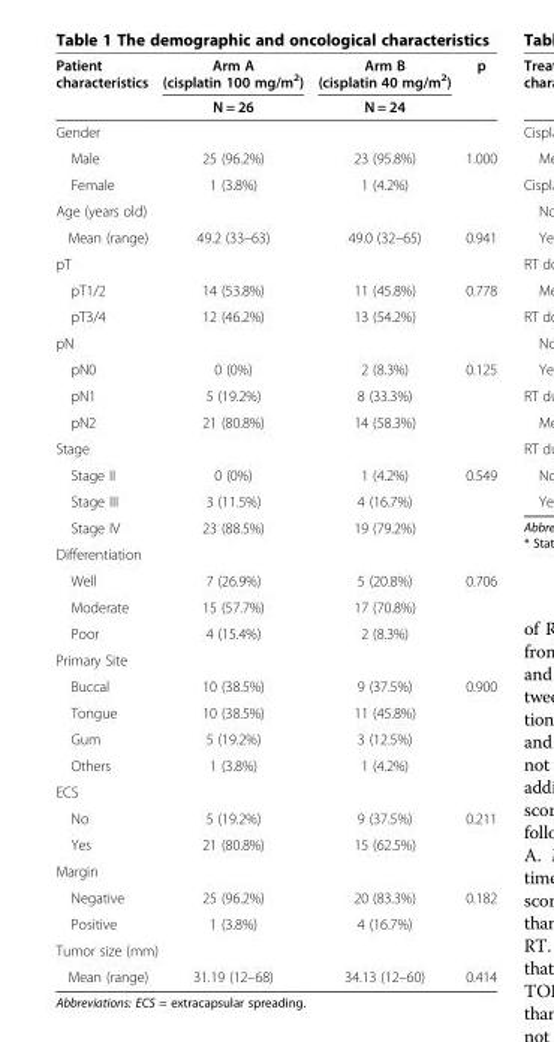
<table><thead><tr><td rowspan="2">Patient characteristics</td><td rowspan="2">Arm A (cisplatin 100 mg/m<sup>2</sup>) N = 26</td><td rowspan="2">Arm B (cisplatin 40 mg/m<sup>2</sup>) N = 24</td><td rowspan="2">p</td></tr><tr></tr></thead><tbody><tr><td colspan="4">Gender</td></tr><tr><td>Male</td><td>25 (96.2%)</td><td>23 (95.8%)</td><td rowspan="2">1.000</td></tr><tr><td>Female</td><td>1 (3.8%)</td><td>1 (4.2%)</td></tr><tr><td colspan="4">Age (years old)</td></tr><tr><td>Mean (range)</td><td>49.2 (33–63)</td><td>49.0 (32–65)</td><td>0.941</td></tr><tr><td colspan="4">pT</td></tr><tr><td>pT1/2</td><td>14 (53.8%)</td><td>11 (45.8%)</td><td rowspan="2">0.778</td></tr><tr><td>pT3/4</td><td>12 (46.2%)</td><td>13 (54.2%)</td></tr><tr><td colspan="4">pN</td></tr><tr><td>pN0</td><td>0 (0%)</td><td>2 (8.3%)</td><td>0.125</td></tr><tr><td>pN1</td><td>5 (19.2%)</td><td>8 (33.3%)</td><td></td></tr><tr><td>pN2</td><td>21 (80.8%)</td><td>14 (58.3%)</td><td></td></tr><tr><td colspan="4">Stage</td></tr><tr><td>Stage II</td><td>0 (0%)</td><td>1 (4.2%)</td><td>0.549</td></tr><tr><td>Stage III</td><td>3 (11.5%)</td><td>4 (16.7%)</td><td></td></tr><tr><td>Stage IV</td><td>23 (88.5%)</td><td>19 (79.2%)</td><td></td></tr><tr><td colspan="4">Differentiation</td></tr><tr><td>Well</td><td>7 (26.9%)</td><td>5 (20.8%)</td><td>0.706</td></tr><tr><td>Moderate</td><td>15 (57.7%)</td><td>17 (70.8%)</td><td></td></tr><tr><td>Poor</td><td>4 (15.4%)</td><td>2 (8.3%)</td><td></td></tr><tr><td colspan="4">Primary Site</td></tr><tr><td>Buccal</td><td>10 (38.5%)</td><td>9 (37.5%)</td><td>0.900</td></tr><tr><td>Tongue</td><td>10 (38.5%)</td><td>11 (45.8%)</td><td></td></tr><tr><td>Gum</td><td>5 (19.2%)</td><td>3 (12.5%)</td><td></td></tr><tr><td>Others</td><td>1 (3.8%)</td><td>1 (4.2%)</td><td></td></tr><tr><td colspan="4">ECS</td></tr><tr><td>No</td><td>5 (19.2%)</td><td>9 (37.5%)</td><td rowspan="2">0.211</td></tr><tr><td>Yes</td><td>21 (80.8%)</td><td>15 (62.5%)</td></tr><tr><td colspan="4">Margin</td></tr><tr><td>Negative</td><td>25 (96.2%)</td><td>20 (83.3%)</td><td rowspan="2">0.182</td></tr><tr><td>Positive</td><td>1 (3.8%)</td><td>4 (16.7%)</td></tr><tr><td colspan="4">Tumor size (mm)</td></tr><tr><td>Mean (range)</td><td>31.19 (12–68)</td><td>34.13 (12–60)</td><td>0.414</td></tr></tbody></table>